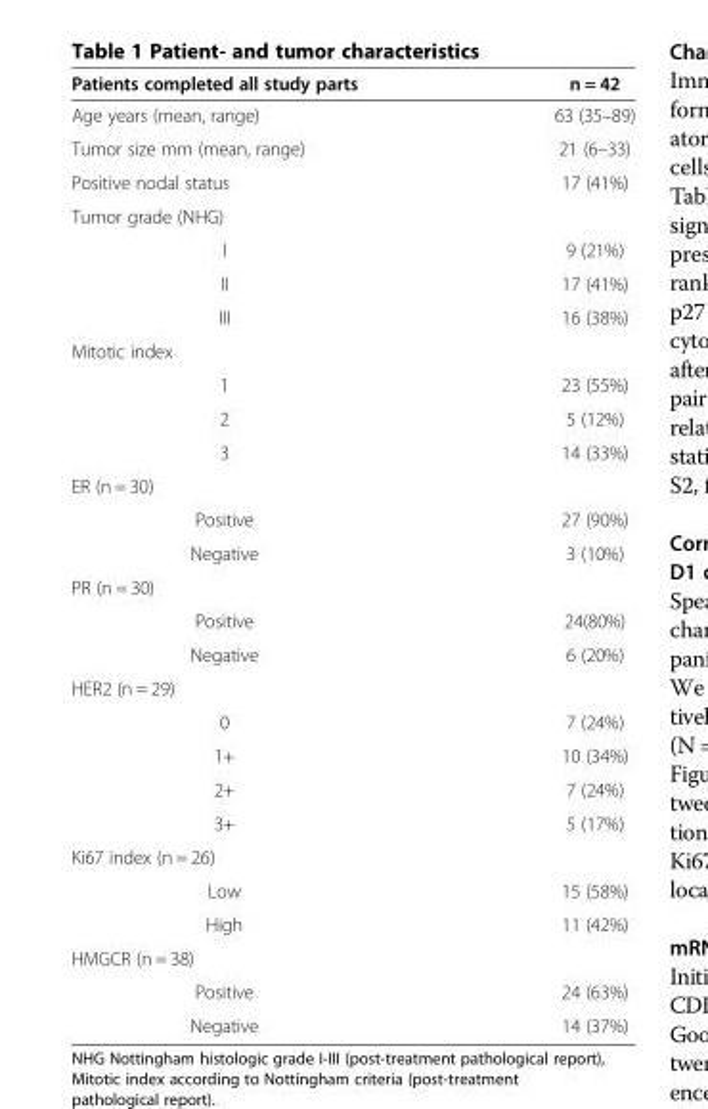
<table><thead><tr><td>Patients completed all study parts</td><td>n = 42</td></tr></thead><tbody><tr><td>Age years (mean, range)</td><td>63 (35–89)</td></tr><tr><td>Tumor size mm (mean, range)</td><td>21 (6–33)</td></tr><tr><td>Positive nodal status</td><td>17 (41%)</td></tr><tr><td colspan="2">Tumor grade (NHG)</td></tr><tr><td>I</td><td>9 (21%)</td></tr><tr><td>II</td><td>17 (41%)</td></tr><tr><td>III</td><td>16 (38%)</td></tr><tr><td colspan="2">Mitotic index</td></tr><tr><td>1</td><td>23 (55%)</td></tr><tr><td>2</td><td>5 (12%)</td></tr><tr><td>3</td><td>14 (33%)</td></tr><tr><td colspan="2">ER (n = 30)</td></tr><tr><td>Positive</td><td>27 (90%)</td></tr><tr><td>Negative</td><td>3 (10%)</td></tr><tr><td colspan="2">PR (n = 30)</td></tr><tr><td>Positive</td><td>24(80%)</td></tr><tr><td>Negative</td><td>6 (20%)</td></tr><tr><td colspan="2">HER2 (n = 29)</td></tr><tr><td>0</td><td>7 (24%)</td></tr><tr><td>1+</td><td>10 (34%)</td></tr><tr><td>2+</td><td>7 (24%)</td></tr><tr><td>3+</td><td>5 (17%)</td></tr><tr><td colspan="2">Ki67 index (n = 26)</td></tr><tr><td>Low</td><td>15 (58%)</td></tr><tr><td>High</td><td>11 (42%)</td></tr><tr><td colspan="2">HMGCR (n = 38)</td></tr><tr><td>Positive</td><td>24 (63%)</td></tr><tr><td>Negative</td><td>14 (37%)</td></tr></tbody></table>